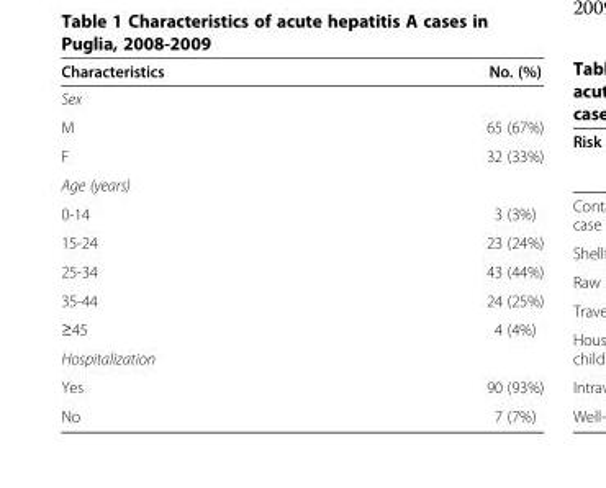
<table><thead><tr><td>Characteristics</td><td>No. (%)</td></tr></thead><tbody><tr><td colspan="2">Sex</td></tr><tr><td>M</td><td>65 (67%)</td></tr><tr><td>F</td><td>32 (33%)</td></tr><tr><td colspan="2">Age (years)</td></tr><tr><td>0-14</td><td>3 (3%)</td></tr><tr><td>15-24</td><td>23 (24%)</td></tr><tr><td>25-34</td><td>43 (44%)</td></tr><tr><td>35-44</td><td>24 (25%)</td></tr><tr><td>≥45</td><td>4 (4%)</td></tr><tr><td colspan="2">Hospitalization</td></tr><tr><td>Yes</td><td>90 (93%)</td></tr><tr><td>No</td><td>7 (7%)</td></tr></tbody></table>